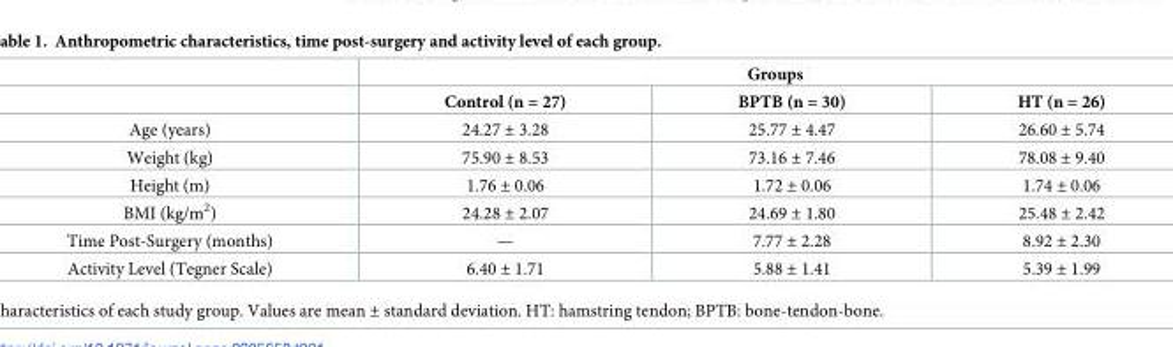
<table><thead><tr><td rowspan="2"></td><td colspan="3">Groups</td></tr><tr><td>Control (n = 27)</td><td>BPTB (n = 30)</td><td>HT (n = 26)</td></tr></thead><tbody><tr><td>Age (years)</td><td>24.27 ± 3.28</td><td>25.77 ± 4.47</td><td>26.60 ± 5.74</td></tr><tr><td>Weight (kg)</td><td>75.90 ± 8.53</td><td>73.16 ± 7.46</td><td>78.08 ± 9.40</td></tr><tr><td>Height (m)</td><td>1.76 ± 0.06</td><td>1.72 ± 0.06</td><td>1.74 ± 0.06</td></tr><tr><td>BMI (kg/m<sup>2</sup>)</td><td>24.28 ± 2.07</td><td>24.69 ± 1.80</td><td>25.48 ± 2.42</td></tr><tr><td>Time Post-Surgery (months)</td><td>—</td><td>7.77 ± 2.28</td><td>8.92 ± 2.30</td></tr><tr><td>Activity Level (Tegner Scale)</td><td>6.40 ± 1.71</td><td>5.88 ± 1.41</td><td>5.39 ± 1.99</td></tr></tbody></table>